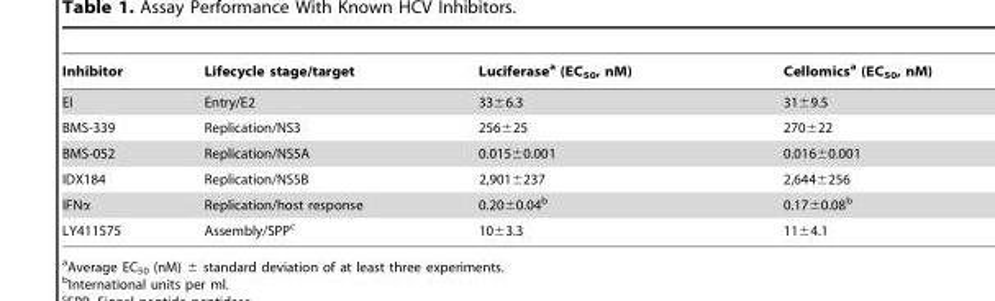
<table><thead><tr><td>Inhibitor</td><td>Lifecycle stage/target</td><td>Luciferase<sup>a</sup> (EC<sub>50</sub>, nM)</td><td>Cellomics<sup>a</sup> (EC<sub>50</sub>, nM)</td></tr></thead><tbody><tr><td>EI</td><td>Entry/E2</td><td>33±6.3</td><td>31±9.5</td></tr><tr><td>BMS-339</td><td>Replication/NS3</td><td>256±25</td><td>270±22</td></tr><tr><td>BMS-052</td><td>Replication/NS5A</td><td>0.015±0.001</td><td>0.016±0.001</td></tr><tr><td>IDX184</td><td>Replication/NS5B</td><td>2,901±237</td><td>2,644±256</td></tr><tr><td>IFNα</td><td>Replication/host response</td><td>0.20±0.04<sup>b</sup></td><td>0.17±0.08<sup>b</sup></td></tr><tr><td>LY411575</td><td>Assembly/SPP<sup>c</sup></td><td>10±3.3</td><td>11±4.1</td></tr></tbody></table>